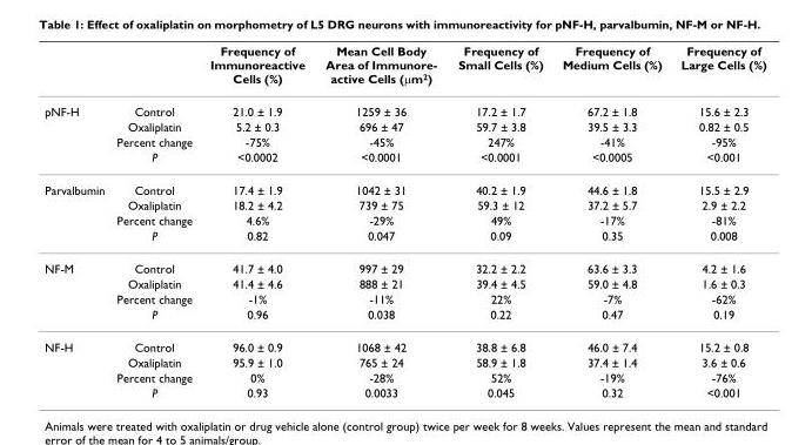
<table><thead><tr><td></td><td></td><td>Frequency of Immunoreactive Cells (%)</td><td>Mean Cell Body Area of Immunore- active Cells (μm2)</td><td>Frequency of Small Cells (%)</td><td>Frequency of Medium Cells (%)</td><td>Frequency of Large Cells (%)</td></tr></thead><tbody><tr><td rowspan="4">pNF-H</td><td>Control</td><td>21.0 ± 1.9</td><td>1259 ± 36</td><td>17.2 ± 1.7</td><td>67.2 ± 1.8</td><td>15.6 ± 2.3</td></tr><tr><td>Oxaliplatin</td><td>5.2 ± 0.3</td><td>696 ± 47</td><td>59.7 ± 3.8</td><td>39.5 ± 3.3</td><td>0.82 ± 0.5</td></tr><tr><td>Percent change</td><td>-75%</td><td>-45%</td><td>247%</td><td>-41%</td><td>-95%</td></tr><tr><td>P</td><td>&lt;0.0002</td><td>&lt;0.0001</td><td>&lt;0.0001</td><td>&lt;0.0005</td><td>&lt;0.001</td></tr><tr><td rowspan="4">Parvalbumin</td><td>Control</td><td>17.4 ± 1.9</td><td>1042 ± 31</td><td>40.2 ± 1.9</td><td>44.6 ± 1.8</td><td>15.5 ± 2.9</td></tr><tr><td>Oxaliplatin</td><td>18.2 ± 4.2</td><td>739 ± 75</td><td>59.3 ± 12</td><td>37.2 ± 5.7</td><td>2.9 ± 2.2</td></tr><tr><td>Percent change</td><td>4.6%</td><td>-29%</td><td>49%</td><td>-17%</td><td>-81%</td></tr><tr><td>P</td><td>0.82</td><td>0.047</td><td>0.09</td><td>0.35</td><td>0.008</td></tr><tr><td rowspan="4">NF-M</td><td>Control</td><td>41.7 ± 4.0</td><td>997 ± 29</td><td>32.2 ± 2.2</td><td>63.6 ± 3.3</td><td>4.2 ± 1.6</td></tr><tr><td>Oxaliplatin</td><td>41.4 ± 4.6</td><td>888 ± 21</td><td>39.4 ± 4.5</td><td>59.0 ± 4.8</td><td>1.6 ± 0.3</td></tr><tr><td>Percent change</td><td>-1%</td><td>-11%</td><td>22%</td><td>-7%</td><td>-62%</td></tr><tr><td>P</td><td>0.96</td><td>0.038</td><td>0.22</td><td>0.47</td><td>0.19</td></tr><tr><td rowspan="4">NF-H</td><td>Control</td><td>96.0 ± 0.9</td><td>1068 ± 42</td><td>38.8 ± 6.8</td><td>46.0 ± 7.4</td><td>15.2 ± 0.8</td></tr><tr><td>Oxaliplatin</td><td>95.9 ± 1.0</td><td>765 ± 24</td><td>58.9 ± 1.8</td><td>37.4 ± 1.4</td><td>3.6 ± 0.6</td></tr><tr><td>Percent change</td><td>0%</td><td>-28%</td><td>52%</td><td>-19%</td><td>-76%</td></tr><tr><td>P</td><td>0.93</td><td>0.0033</td><td>0.045</td><td>0.32</td><td>&lt;0.001</td></tr></tbody></table>